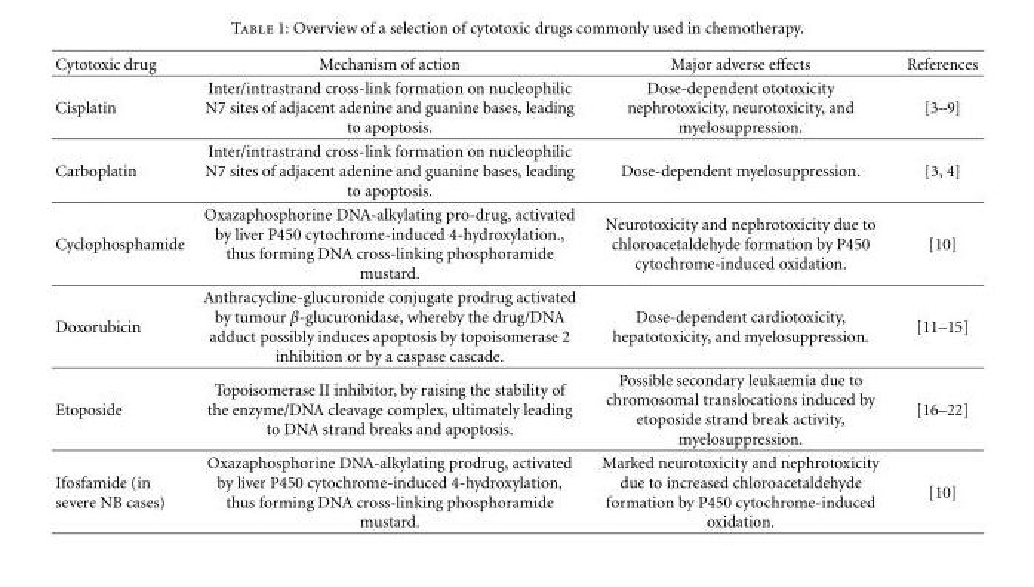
<table><thead><tr><td>Cytotoxic drug</td><td>Mechanism of action</td><td>Major adverse effects</td><td>References</td></tr></thead><tbody><tr><td>Cisplatin</td><td>Inter/intrastrand cross-link formation on nucleophilic N7 sites of adjacent adenine and guanine bases, leading to apoptosis.</td><td>Dose-dependent ototoxicity nephrotoxicity, neurotoxicity, and myelosuppression.</td><td>[3–9]</td></tr><tr><td>Carboplatin</td><td>Inter/intrastrand cross-link formation on nucleophilic N7 sites of adjacent adenine and guanine bases, leading to apoptosis.</td><td>Dose-dependent myelosuppression.</td><td>[3, 4]</td></tr><tr><td>Cyclophosphamide</td><td>Oxazaphosphorine DNA-alkylating pro-drug, activated by liver P450 cytochrome-induced 4-hydroxylation., thus forming DNA cross-linking phosphoramide mustard.</td><td>Neurotoxicity and nephrotoxicity due to chloroacetaldehyde formation by P450 cytochrome-induced oxidation.</td><td>[10]</td></tr><tr><td>Doxorubicin</td><td>Anthracycline-glucuronide conjugate prodrug activated by tumour β-glucuronidase, whereby the drug/DNA adduct possibly induces apoptosis by topoisomerase 2 inhibition or by a caspase cascade.</td><td>Dose-dependent cardiotoxicity, hepatotoxicity, and myelosuppression.</td><td>[11–15]</td></tr><tr><td>Etoposide</td><td>Topoisomerase II inhibitor, by raising the stability of the enzyme/DNA cleavage complex, ultimately leading to DNA strand breaks and apoptosis.</td><td>Possible secondary leukaemia due to chromosomal translocations induced by etoposide strand break activity, myelosuppression.</td><td>[16–22]</td></tr><tr><td>Ifosfamide (in severe NB cases)</td><td>Oxazaphosphorine DNA-alkylating prodrug, activated by liver P450 cytochrome-induced 4-hydroxylation, thus forming DNA cross-linking phosphoramide mustard.</td><td>Marked neurotoxicity and nephrotoxicity due to increased chloroacetaldehyde formation by P450 cytochrome-induced oxidation.</td><td>[10]</td></tr></tbody></table>